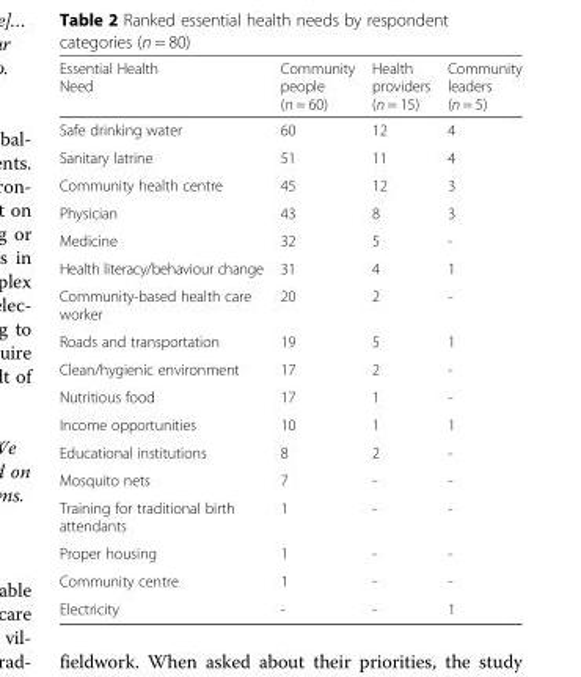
<table><thead><tr><td>Essential Health Need</td><td>Community people (n = 60)</td><td>Health providers (n = 15)</td><td>Community leaders (n = 5)</td></tr></thead><tbody><tr><td>Safe drinking water</td><td>60</td><td>12</td><td>4</td></tr><tr><td>Sanitary latrine</td><td>51</td><td>11</td><td>4</td></tr><tr><td>Community health centre</td><td>45</td><td>12</td><td>3</td></tr><tr><td>Physician</td><td>43</td><td>8</td><td>3</td></tr><tr><td>Medicine</td><td>32</td><td>5</td><td>-</td></tr><tr><td>Health literacy/behaviour change</td><td>31</td><td>4</td><td>1</td></tr><tr><td>Community-based health care worker</td><td>20</td><td>2</td><td>-</td></tr><tr><td>Roads and transportation</td><td>19</td><td>5</td><td>1</td></tr><tr><td>Clean/hygienic environment</td><td>17</td><td>2</td><td>-</td></tr><tr><td>Nutritious food</td><td>17</td><td>1</td><td>-</td></tr><tr><td>Income opportunities</td><td>10</td><td>1</td><td>1</td></tr><tr><td>Educational institutions</td><td>8</td><td>2</td><td>-</td></tr><tr><td>Mosquito nets</td><td>7</td><td>-</td><td>-</td></tr><tr><td>Training for traditional birth attendants</td><td>1</td><td>-</td><td>-</td></tr><tr><td>Proper housing</td><td>1</td><td>-</td><td>-</td></tr><tr><td>Community centre</td><td>1</td><td>-</td><td>-</td></tr><tr><td>Electricity</td><td>-</td><td>-</td><td>1</td></tr></tbody></table>